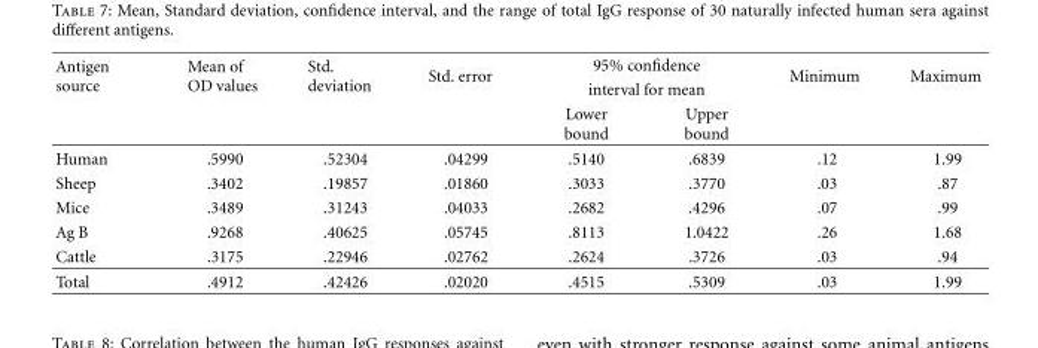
<table><thead><tr><td rowspan="3">Antigen source</td><td rowspan="3">Mean of OD values</td><td rowspan="3">Std. deviation</td><td rowspan="3">Std. error</td><td rowspan="2" colspan="2">95% confidence interval for mean</td><td rowspan="3">Minimum</td><td rowspan="3">Maximum</td></tr><tr></tr><tr><td>Lower bound</td><td>Upper bound</td></tr></thead><tbody><tr><td>Human</td><td>.5990</td><td>.52304</td><td>.04299</td><td>.5140</td><td>.6839</td><td>.12</td><td>1.99</td></tr><tr><td>Sheep</td><td>.3402</td><td>.19857</td><td>.01860</td><td>.3033</td><td>.3770</td><td>.03</td><td>.87</td></tr><tr><td>Mice</td><td>.3489</td><td>.31243</td><td>.04033</td><td>.2682</td><td>.4296</td><td>.07</td><td>.99</td></tr><tr><td>Ag B</td><td>.9268</td><td>.40625</td><td>.05745</td><td>.8113</td><td>1.0422</td><td>.26</td><td>1.68</td></tr><tr><td>Cattle</td><td>.3175</td><td>.22946</td><td>.02762</td><td>.2624</td><td>.3726</td><td>.03</td><td>.94</td></tr><tr><td>Total</td><td>.4912</td><td>.42426</td><td>.02020</td><td>.4515</td><td>.5309</td><td>.03</td><td>1.99</td></tr></tbody></table>